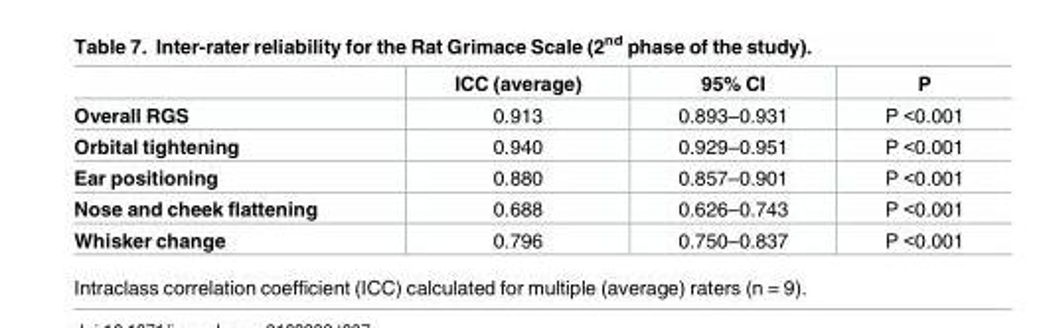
<table><thead><tr><td></td><td>ICC (average)</td><td>95% CI</td><td>P</td></tr></thead><tbody><tr><td>Overall RGS</td><td>0.913</td><td>0.893–0.931</td><td>P &lt;0.001</td></tr><tr><td>Orbital tightening</td><td>0.940</td><td>0.929–0.951</td><td>P &lt;0.001</td></tr><tr><td>Ear positioning</td><td>0.880</td><td>0.857–0.901</td><td>P &lt;0.001</td></tr><tr><td>Nose and cheek flattening</td><td>0.688</td><td>0.626–0.743</td><td>P &lt;0.001</td></tr><tr><td>Whisker change</td><td>0.796</td><td>0.750–0.837</td><td>P &lt;0.001</td></tr></tbody></table>